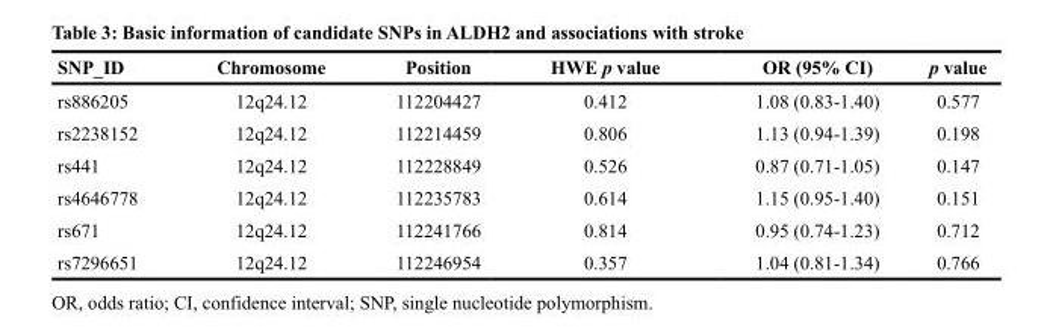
<table><thead><tr><td>SNP_ID</td><td>Chromosome</td><td>Position</td><td>HWE p value</td><td>OR (95% CI)</td><td>p value</td></tr></thead><tbody><tr><td>rs886205</td><td>12q24.12</td><td>112204427</td><td>0.412</td><td>1.08 (0.83-1.40)</td><td>0.577</td></tr><tr><td>rs2238152</td><td>12q24.12</td><td>112214459</td><td>0.806</td><td>1.13 (0.94-1.39)</td><td>0.198</td></tr><tr><td>rs441</td><td>12q24.12</td><td>112228849</td><td>0.526</td><td>0.87 (0.71-1.05)</td><td>0.147</td></tr><tr><td>rs4646778</td><td>12q24.12</td><td>112235783</td><td>0.614</td><td>1.15 (0.95-1.40)</td><td>0.151</td></tr><tr><td>rs671</td><td>12q24.12</td><td>112241766</td><td>0.814</td><td>0.95 (0.74-1.23)</td><td>0.712</td></tr><tr><td>rs7296651</td><td>12q24.12</td><td>112246954</td><td>0.357</td><td>1.04 (0.81-1.34)</td><td>0.766</td></tr></tbody></table>